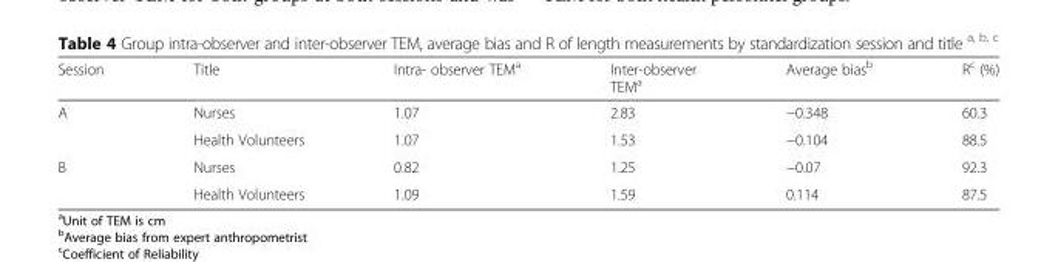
<table><thead><tr><td>Session</td><td>Title</td><td>Intra- observer TEM<sup>a</sup></td><td>Inter-observer TEM<sup>a</sup></td><td>Average bias<sup>b</sup></td><td>R<sup>c</sup> (%)</td></tr></thead><tbody><tr><td rowspan="2">A</td><td>Nurses</td><td>1.07</td><td>2.83</td><td>−0.348</td><td>60.3</td></tr><tr><td>Health Volunteers</td><td>1.07</td><td>1.53</td><td>−0.104</td><td>88.5</td></tr><tr><td rowspan="2">B</td><td>Nurses</td><td>0.82</td><td>1.25</td><td>−0.07</td><td>92.3</td></tr><tr><td>Health Volunteers</td><td>1.09</td><td>1.59</td><td>0.114</td><td>87.5</td></tr></tbody></table>